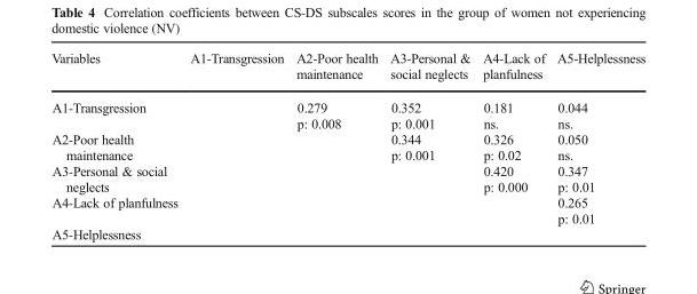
<table><thead><tr><td>Variables</td><td>A1-Transgression</td><td>A2-Poor health maintenance</td><td>A3-Personal &amp; social neglects</td><td>A4-Lack of planfulness</td><td>A5-Helplessness</td></tr></thead><tbody><tr><td>A1-Transgression</td><td></td><td>0.279 p: 0.008</td><td>0.352 p: 0.001</td><td>0.181 ns.</td><td>0.044 ns.</td></tr><tr><td>A2-Poor health maintenance</td><td></td><td></td><td>0.344 p: 0.001</td><td>0.326 p: 0.02</td><td>0.050 ns.</td></tr><tr><td>A3-Personal &amp; social neglects</td><td></td><td></td><td></td><td>0.420 p: 0.000</td><td>0.347 p: 0.01</td></tr><tr><td>A4-Lack of planfulness</td><td></td><td></td><td></td><td></td><td>0.265 p: 0.01</td></tr><tr><td>A5-Helplessness</td><td></td><td></td><td></td><td></td><td></td></tr></tbody></table>